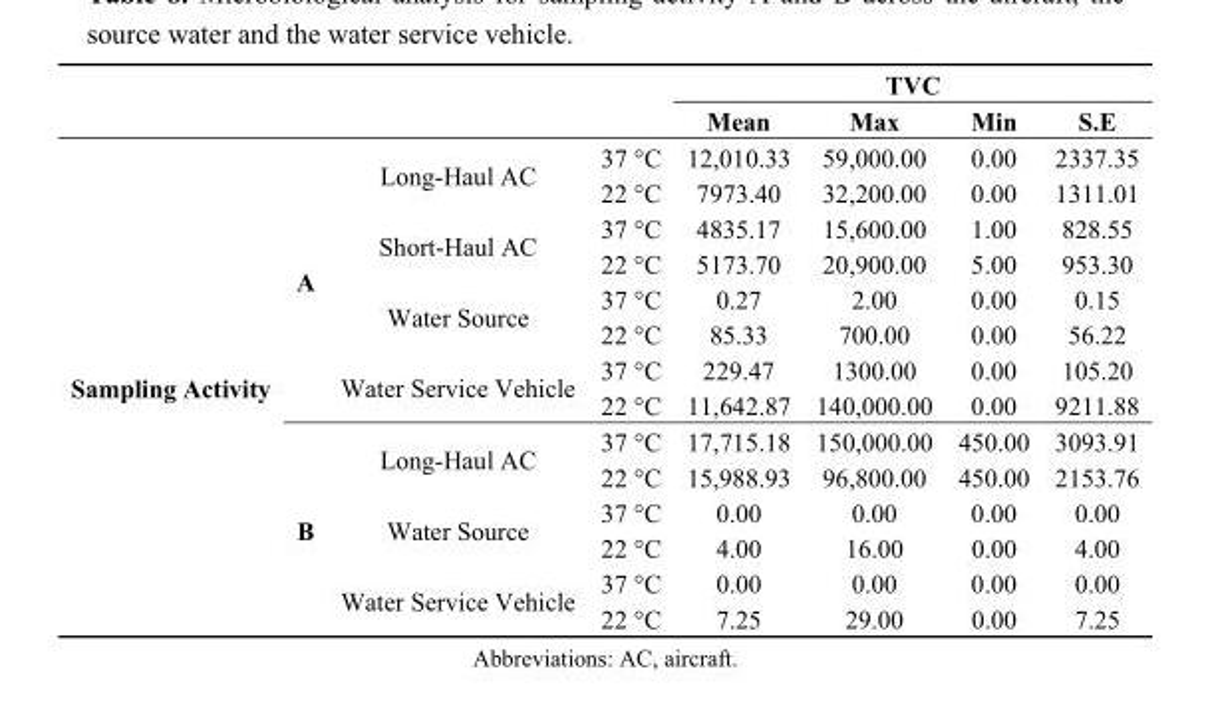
<table><thead><tr><td rowspan="2"></td><td rowspan="2"></td><td rowspan="2"></td><td rowspan="2"></td><td colspan="4">TVC</td></tr><tr><td>Mean</td><td>Max</td><td>Min</td><td>S.E</td></tr></thead><tbody><tr><td rowspan="14">Sampling Activity</td><td rowspan="8">A</td><td rowspan="2">Long-Haul AC</td><td>37 °C</td><td>12,010.33</td><td>59,000.00</td><td>0.00</td><td>2337.35</td></tr><tr><td>22 °C</td><td>7973.40</td><td>32,200.00</td><td>0.00</td><td>1311.01</td></tr><tr><td rowspan="2">Short-Haul AC</td><td>37 °C</td><td>4835.17</td><td>15,600.00</td><td>1.00</td><td>828.55</td></tr><tr><td>22 °C</td><td>5173.70</td><td>20,900.00</td><td>5.00</td><td>953.30</td></tr><tr><td rowspan="2">Water Source</td><td>37 °C</td><td>0.27</td><td>2.00</td><td>0.00</td><td>0.15</td></tr><tr><td>22 °C</td><td>85.33</td><td>700.00</td><td>0.00</td><td>56.22</td></tr><tr><td rowspan="2">Water Service Vehicle</td><td>37 °C</td><td>229.47</td><td>1300.00</td><td>0.00</td><td>105.20</td></tr><tr><td>22 °C</td><td>11,642.87</td><td>140,000.00</td><td>0.00</td><td>9211.88</td></tr><tr><td rowspan="6">B</td><td rowspan="2">Long-Haul AC</td><td>37 °C</td><td>17,715.18</td><td>150,000.00</td><td>450.00</td><td>3093.91</td></tr><tr><td>22 °C</td><td>15,988.93</td><td>96,800.00</td><td>450.00</td><td>2153.76</td></tr><tr><td rowspan="2">Water Source</td><td>37 °C</td><td>0.00</td><td>0.00</td><td>0.00</td><td>0.00</td></tr><tr><td>22 °C</td><td>4.00</td><td>16.00</td><td>0.00</td><td>4.00</td></tr><tr><td rowspan="2">Water Service Vehicle</td><td>37 °C</td><td>0.00</td><td>0.00</td><td>0.00</td><td>0.00</td></tr><tr><td>22 °C</td><td>7.25</td><td>29.00</td><td>0.00</td><td>7.25</td></tr></tbody></table>